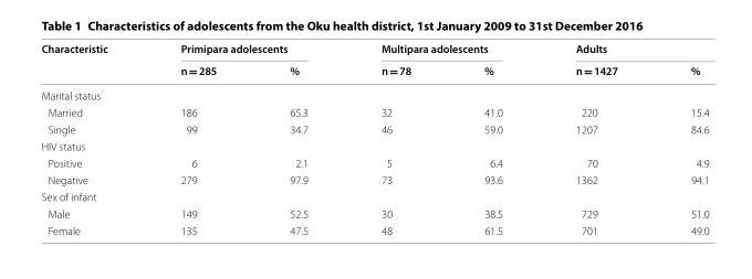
<table><thead><tr><td rowspan="2">Characteristic</td><td colspan="2">Primipara adolescents</td><td colspan="2">Multipara adolescents</td><td colspan="2">Adults</td></tr><tr><td>n = 285</td><td>%</td><td>n = 78</td><td>%</td><td>n = 1427</td><td>%</td></tr></thead><tbody><tr><td colspan="7">Marital status</td></tr><tr><td>Married</td><td>186</td><td>65.3</td><td>32</td><td>41.0</td><td>220</td><td>15.4</td></tr><tr><td>Single</td><td>99</td><td>34.7</td><td>46</td><td>59.0</td><td>1207</td><td>84.6</td></tr><tr><td colspan="7">HIV status</td></tr><tr><td>Positive</td><td>6</td><td>2.1</td><td>5</td><td>6.4</td><td>70</td><td>4.9</td></tr><tr><td>Negative</td><td>279</td><td>97.9</td><td>73</td><td>93.6</td><td>1362</td><td>94.1</td></tr><tr><td colspan="7">Sex of infant</td></tr><tr><td>Male</td><td>149</td><td>52.5</td><td>30</td><td>38.5</td><td>729</td><td>51.0</td></tr><tr><td>Female</td><td>135</td><td>47.5</td><td>48</td><td>61.5</td><td>701</td><td>49.0</td></tr></tbody></table>